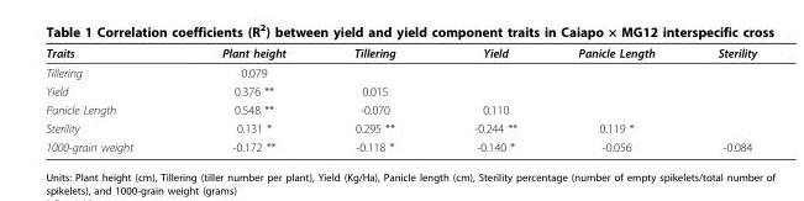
<table><thead><tr><td>Traits</td><td>Plant height</td><td>Tillering</td><td>Yield</td><td>Panicle Length</td><td>Sterility</td></tr></thead><tbody><tr><td>Tillering</td><td>0.079</td><td></td><td></td><td></td><td></td></tr><tr><td>Yield</td><td>0.376 **</td><td>0.015</td><td></td><td></td><td></td></tr><tr><td>Panicle Length</td><td>0.548 **</td><td>-0.070</td><td>0.110</td><td></td><td></td></tr><tr><td>Sterility</td><td>0.131 *</td><td>0.295 **</td><td>-0.244 **</td><td>0.119 *</td><td></td></tr><tr><td>1000-grain weight</td><td>-0.172 **</td><td>-0.118 *</td><td>-0.140 *</td><td>-0.056</td><td>-0.084</td></tr></tbody></table>